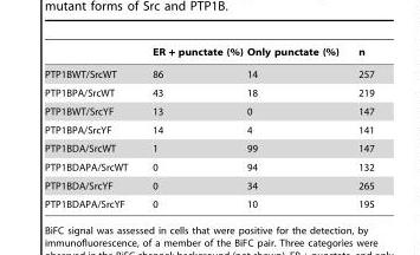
<table><thead><tr><td></td><td>ER + punctate (%)</td><td>Only punctate (%)</td><td>n</td></tr></thead><tbody><tr><td>PTP1BWT/SrcWT</td><td>86</td><td>14</td><td>257</td></tr><tr><td>PTP1BPA/SrcWT</td><td>43</td><td>18</td><td>219</td></tr><tr><td>PTP1BWT/SrcYF</td><td>13</td><td>0</td><td>147</td></tr><tr><td>PTP1BPA/SrcYF</td><td>14</td><td>4</td><td>141</td></tr><tr><td>PTP1BDA/SrcWT</td><td>1</td><td>99</td><td>147</td></tr><tr><td>PTP1BDAPA/SrcWT</td><td>0</td><td>94</td><td>132</td></tr><tr><td>PTP1BDA/SrcYF</td><td>0</td><td>34</td><td>265</td></tr><tr><td>PTP1BDAPA/SrcYF</td><td>0</td><td>10</td><td>195</td></tr></tbody></table>